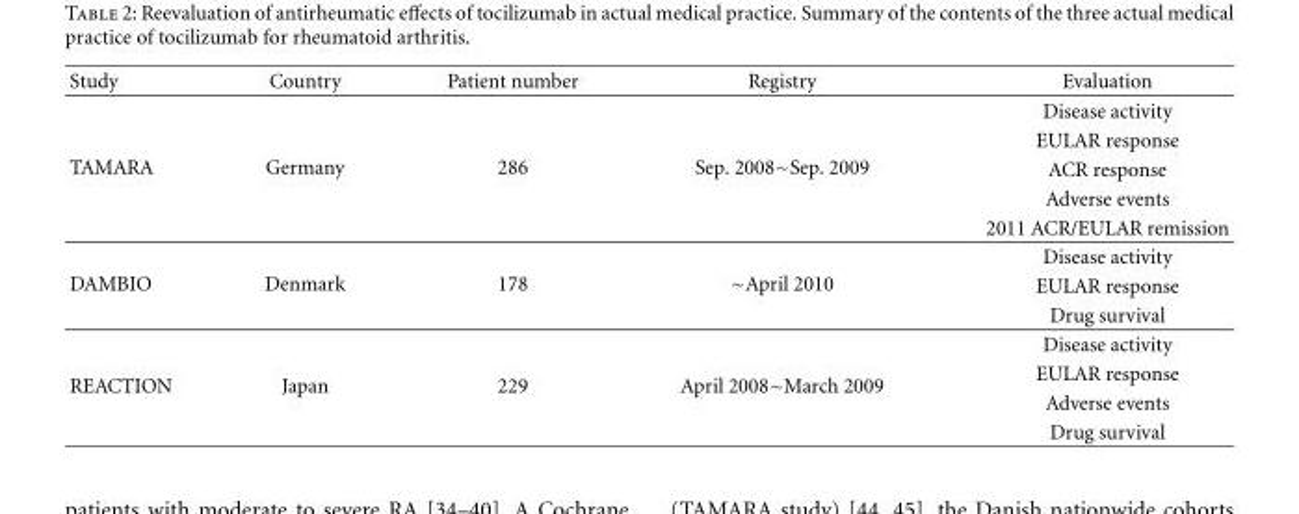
<table><thead><tr><td>Study</td><td>Country</td><td>Patient number</td><td>Registry</td><td>Evaluation</td></tr></thead><tbody><tr><td rowspan="5">TAMARA</td><td rowspan="5">Germany</td><td rowspan="5">286</td><td rowspan="5">Sep. 2008∼Sep. 2009</td><td>Disease activity</td></tr><tr><td>EULAR response</td></tr><tr><td>ACR response</td></tr><tr><td>Adverse events</td></tr><tr><td>2011 ACR/EULAR remission</td></tr><tr><td rowspan="3">DAMBIO</td><td rowspan="3">Denmark</td><td rowspan="3">178</td><td rowspan="3">∼April 2010</td><td>Disease activity</td></tr><tr><td>EULAR response</td></tr><tr><td>Drug survival</td></tr><tr><td rowspan="4">REACTION</td><td rowspan="4">Japan</td><td rowspan="4">229</td><td rowspan="4">April 2008∼March 2009</td><td>Disease activity</td></tr><tr><td>EULAR response</td></tr><tr><td>Adverse events</td></tr><tr><td>Drug survival</td></tr></tbody></table>